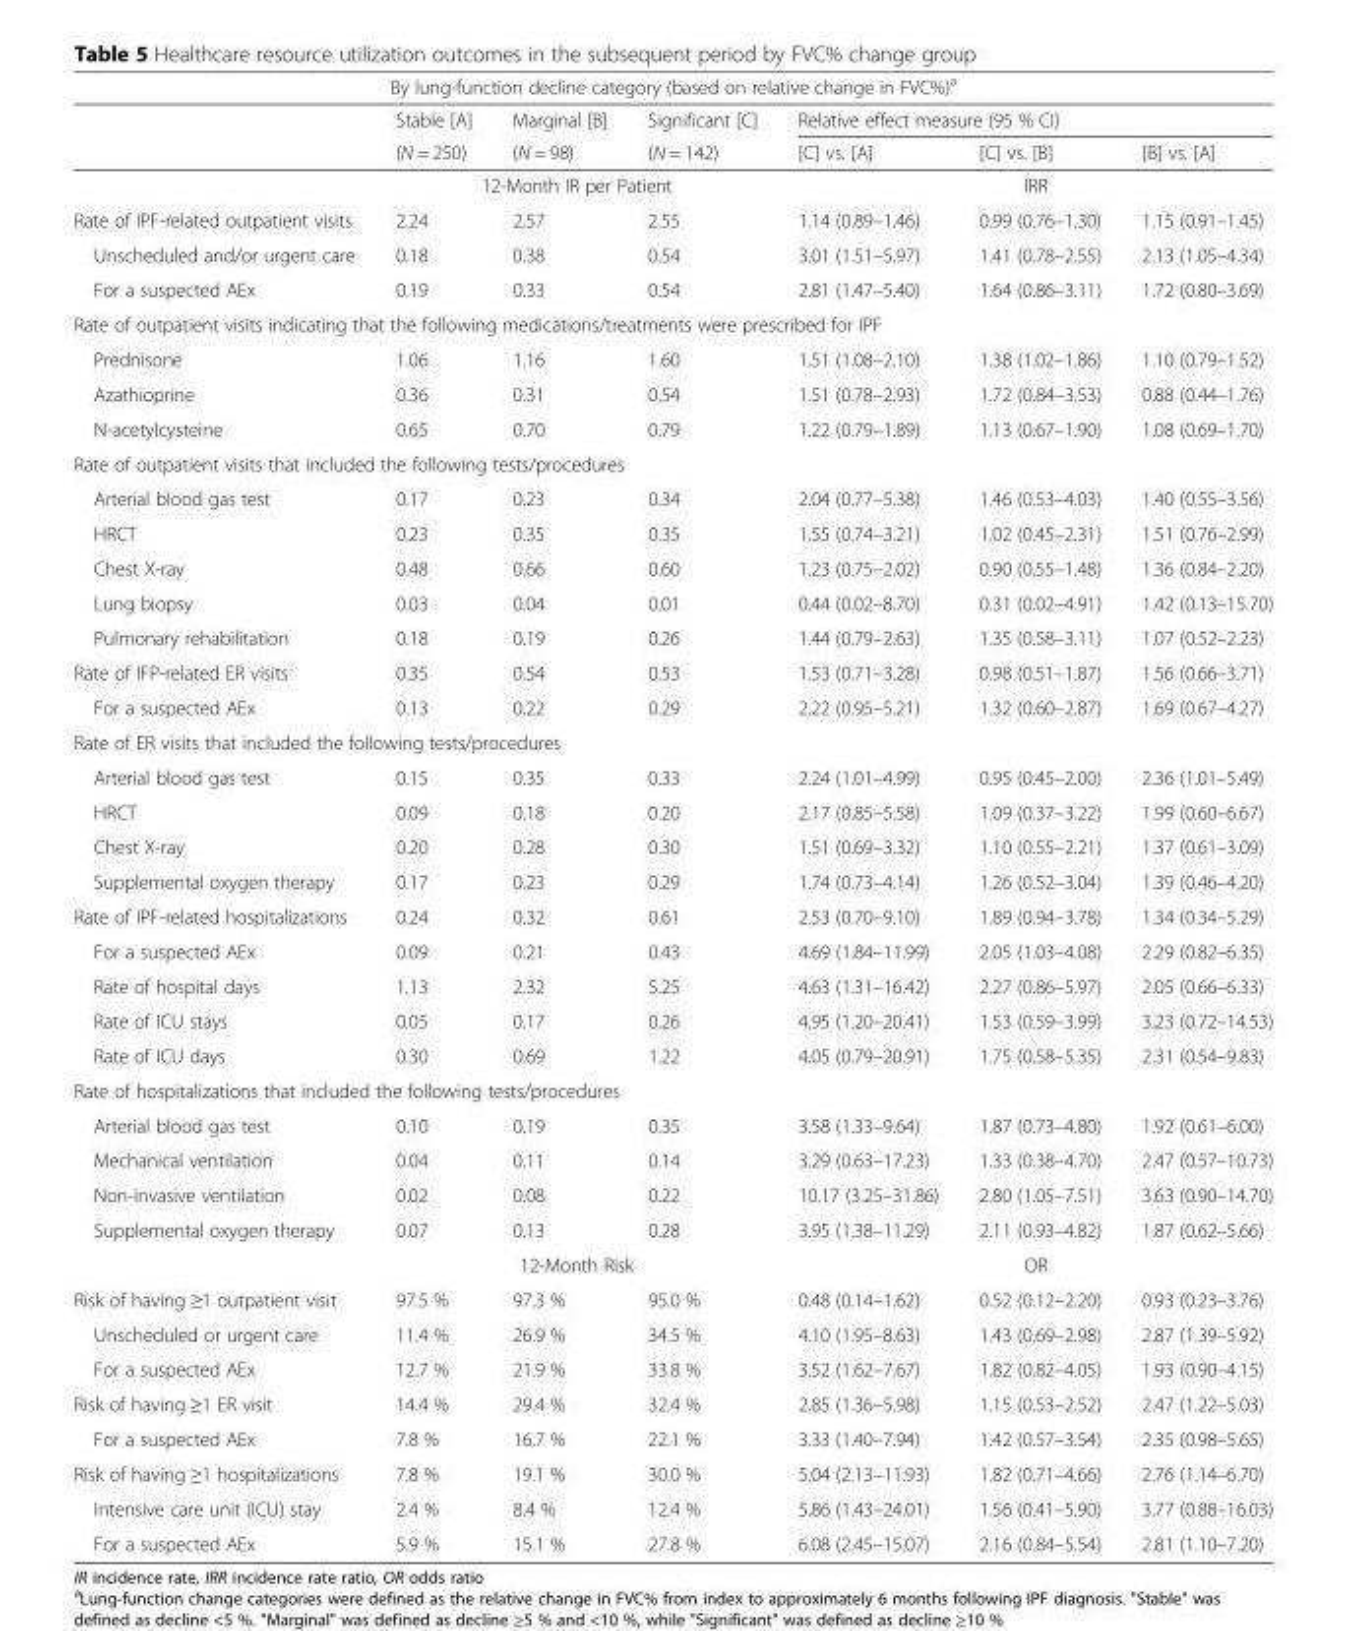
<table><thead><tr><td colspan="7">By lung-function decline category (based on relative change in FVC%)<sup>a</sup></td></tr><tr><td rowspan="2"></td><td rowspan="2">Stable [A] (N = 250)</td><td rowspan="2">Marginal [B] (N = 98)</td><td rowspan="2">Significant [C] (N = 142)</td><td colspan="3">Relative effect measure (95 % CI)</td></tr><tr><td>[C] vs. [A]</td><td>[C] vs. [B]</td><td>[B] vs. [A]</td></tr></thead><tbody><tr><td></td><td colspan="3">12-Month IR per Patient</td><td colspan="3">IRR</td></tr><tr><td>Rate of IPF-related outpatient visits</td><td>2.24</td><td>2.57</td><td>2.55</td><td>1.14 (0.89–1.46)</td><td>0.99 (0.76–1.30)</td><td>1.15 (0.91–1.45)</td></tr><tr><td>Unscheduled and/or urgent care</td><td>0.18</td><td>0.38</td><td>0.54</td><td>3.01 (1.51–5.97)</td><td>1.41 (0.78–2.55)</td><td>2.13 (1.05–4.34)</td></tr><tr><td>For a suspected AEx</td><td>0.19</td><td>0.33</td><td>0.54</td><td>2.81 (1.47–5.40)</td><td>1.64 (0.86–3.11)</td><td>1.72 (0.80–3.69)</td></tr><tr><td colspan="7">Rate of outpatient visits indicating that the following medications/treatments were prescribed for IPF</td></tr><tr><td>Prednisone</td><td>1.06</td><td>1.16</td><td>1.60</td><td>1.51 (1.08–2.10)</td><td>1.38 (1.02–1.86)</td><td>1.10 (0.79–1.52)</td></tr><tr><td>Azathioprine</td><td>0.36</td><td>0.31</td><td>0.54</td><td>1.51 (0.78–2.93)</td><td>1.72 (0.84–3.53)</td><td>0.88 (0.44–1.76)</td></tr><tr><td>N-acetylcysteine</td><td>0.65</td><td>0.70</td><td>0.79</td><td>1.22 (0.79–1.89)</td><td>1.13 (0.67–1.90)</td><td>1.08 (0.69–1.70)</td></tr><tr><td colspan="7">Rate of outpatient visits that included the following tests/procedures</td></tr><tr><td>Arterial blood gas test</td><td>0.17</td><td>0.23</td><td>0.34</td><td>2.04 (0.77–5.38)</td><td>1.46 (0.53–4.03)</td><td>1.40 (0.55–3.56)</td></tr><tr><td>HRCT</td><td>0.23</td><td>0.35</td><td>0.35</td><td>1.55 (0.74–3.21)</td><td>1.02 (0.45–2.31)</td><td>1.51 (0.76–2.99)</td></tr><tr><td>Chest X-ray</td><td>0.48</td><td>0.66</td><td>0.60</td><td>1.23 (0.75–2.02)</td><td>0.90 (0.55–1.48)</td><td>1.36 (0.84–2.20)</td></tr><tr><td>Lung biopsy</td><td>0.03</td><td>0.04</td><td>0.01</td><td>0.44 (0.02–8.70)</td><td>0.31 (0.02–4.91)</td><td>1.42 (0.13–15.70)</td></tr><tr><td>Pulmonary rehabilitation</td><td>0.18</td><td>0.19</td><td>0.26</td><td>1.44 (0.79–2.63)</td><td>1.35 (0.58–3.11)</td><td>1.07 (0.52–2.23)</td></tr><tr><td>Rate of IFP-related ER visits</td><td>0.35</td><td>0.54</td><td>0.53</td><td>1.53 (0.71–3.28)</td><td>0.98 (0.51–1.87)</td><td>1.56 (0.66–3.71)</td></tr><tr><td>For a suspected AEx</td><td>0.13</td><td>0.22</td><td>0.29</td><td>2.22 (0.95–5.21)</td><td>1.32 (0.60–2.87)</td><td>1.69 (0.67–4.27)</td></tr><tr><td colspan="7">Rate of ER visits that included the following tests/procedures</td></tr><tr><td>Arterial blood gas test</td><td>0.15</td><td>0.35</td><td>0.33</td><td>2.24 (1.01–4.99)</td><td>0.95 (0.45–2.00)</td><td>2.36 (1.01–5.49)</td></tr><tr><td>HRCT</td><td>0.09</td><td>0.18</td><td>0.20</td><td>2.17 (0.85–5.58)</td><td>1.09 (0.37–3.22)</td><td>1.99 (0.60–6.67)</td></tr><tr><td>Chest X-ray</td><td>0.20</td><td>0.28</td><td>0.30</td><td>1.51 (0.69–3.32)</td><td>1.10 (0.55–2.21)</td><td>1.37 (0.61–3.09)</td></tr><tr><td>Supplemental oxygen therapy</td><td>0.17</td><td>0.23</td><td>0.29</td><td>1.74 (0.73–4.14)</td><td>1.26 (0.52–3.04)</td><td>1.39 (0.46–4.20)</td></tr><tr><td>Rate of IPF-related hospitalizations</td><td>0.24</td><td>0.32</td><td>0.61</td><td>2.53 (0.70–9.10)</td><td>1.89 (0.94–3.78)</td><td>1.34 (0.34–5.29)</td></tr><tr><td>For a suspected AEx</td><td>0.09</td><td>0.21</td><td>0.43</td><td>4.69 (1.84–11.99)</td><td>2.05 (1.03–4.08)</td><td>2.29 (0.82–6.35)</td></tr><tr><td>Rate of hospital days</td><td>1.13</td><td>2.32</td><td>5.25</td><td>4.63 (1.31–16.42)</td><td>2.27 (0.86–5.97)</td><td>2.05 (0.66–6.33)</td></tr><tr><td>Rate of ICU stays</td><td>0.05</td><td>0.17</td><td>0.26</td><td>4.95 (1.20–20.41)</td><td>1.53 (0.59–3.99)</td><td>3.23 (0.72–14.53)</td></tr><tr><td>Rate of ICU days</td><td>0.30</td><td>0.69</td><td>1.22</td><td>4.05 (0.79–20.91)</td><td>1.75 (0.58–5.35)</td><td>2.31 (0.54–9.83)</td></tr><tr><td colspan="7">Rate of hospitalizations that included the following tests/procedures</td></tr><tr><td>Arterial blood gas test</td><td>0.10</td><td>0.19</td><td>0.35</td><td>3.58 (1.33–9.64)</td><td>1.87 (0.73–4.80)</td><td>1.92 (0.61–6.00)</td></tr><tr><td>Mechanical ventilation</td><td>0.04</td><td>0.11</td><td>0.14</td><td>3.29 (0.63–17.23)</td><td>1.33 (0.38–4.70)</td><td>2.47 (0.57–10.73)</td></tr><tr><td>Non-invasive ventilation</td><td>0.02</td><td>0.08</td><td>0.22</td><td>10.17 (3.25–31.86)</td><td>2.80 (1.05–7.51)</td><td>3.63 (0.90–14.70)</td></tr><tr><td rowspan="2">Supplemental oxygen therapy</td><td>0.07</td><td>0.13</td><td>0.28</td><td>3.95 (1.38–11.29)</td><td>2.11 (0.93–4.82)</td><td>1.87 (0.62–5.66)</td></tr><tr><td colspan="3">12-Month Risk</td><td colspan="3">OR</td></tr><tr><td>Risk of having ≥1 outpatient visit</td><td>97.5 %</td><td>97.3 %</td><td>95.0 %</td><td>0.48 (0.14–1.62)</td><td>0.52 (0.12–2.20)</td><td>0.93 (0.23–3.76)</td></tr><tr><td>Unscheduled or urgent care</td><td>11.4 %</td><td>26.9 %</td><td>34.5 %</td><td>4.10 (1.95–8.63)</td><td>1.43 (0.69–2.98)</td><td>2.87 (1.39–5.92)</td></tr><tr><td>For a suspected AEx</td><td>12.7 %</td><td>21.9 %</td><td>33.8 %</td><td>3.52 (1.62–7.67)</td><td>1.82 (0.82–4.05)</td><td>1.93 (0.90–4.15)</td></tr><tr><td>Risk of having ≥1 ER visit</td><td>14.4 %</td><td>29.4 %</td><td>32.4 %</td><td>2.85 (1.36–5.98)</td><td>1.15 (0.53–2.52)</td><td>2.47 (1.22–5.03)</td></tr><tr><td>For a suspected AEx</td><td>7.8 %</td><td>16.7 %</td><td>22.1 %</td><td>3.33 (1.40–7.94)</td><td>1.42 (0.57–3.54)</td><td>2.35 (0.98–5.65)</td></tr><tr><td>Risk of having ≥1 hospitalizations</td><td>7.8 %</td><td>19.1 %</td><td>30.0 %</td><td>5.04 (2.13–11.93)</td><td>1.82 (0.71–4.66)</td><td>2.76 (1.14–6.70)</td></tr><tr><td>Intensive care unit (ICU) stay</td><td>2.4 %</td><td>8.4 %</td><td>12.4 %</td><td>5.86 (1.43–24.01)</td><td>1.56 (0.41–5.90)</td><td>3.77 (0.88–16.03)</td></tr><tr><td>For a suspected AEx</td><td>5.9 %</td><td>15.1 %</td><td>27.8 %</td><td>6.08 (2.45–15.07)</td><td>2.16 (0.84–5.54)</td><td>2.81 (1.10–7.20)</td></tr></tbody></table>